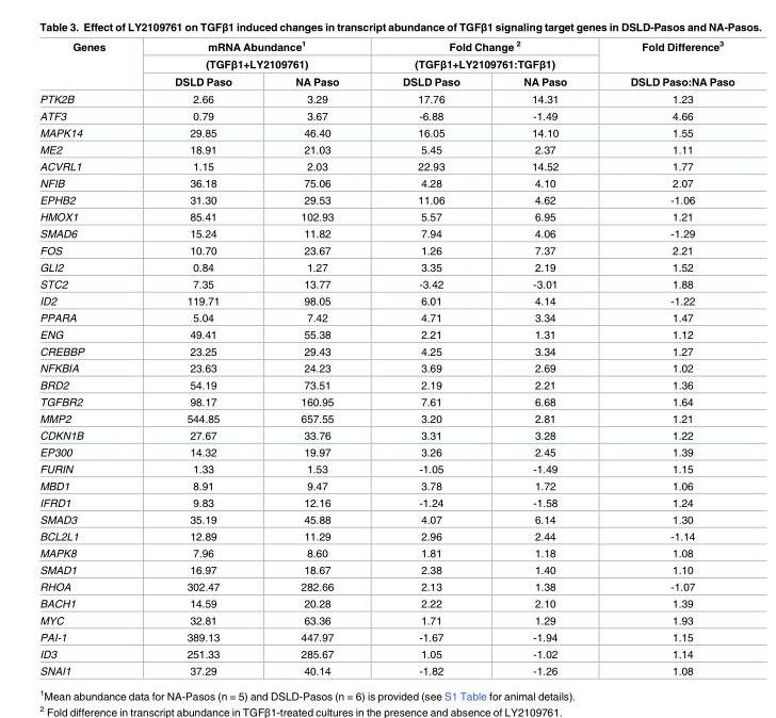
<table><thead><tr><td rowspan="3">Genes</td><td rowspan="2" colspan="2">mRNA Abundance<sup>1</sup> (TGFβ1+LY2109761)</td><td rowspan="2" colspan="2">Fold Change <sup>2</sup> (TGFβ1+LY2109761:TGFβ1)</td><td rowspan="3">Fold Difference<sup>3</sup> DSLD Paso:NA Paso</td></tr><tr></tr><tr><td>DSLD Paso</td><td>NA Paso</td><td>DSLD Paso</td><td>NA Paso</td></tr></thead><tbody><tr><td>PTK2B</td><td>2.66</td><td>3.29</td><td>17.76</td><td>14.31</td><td>1.23</td></tr><tr><td>ATF3</td><td>0.79</td><td>3.67</td><td>-6.88</td><td>-1.49</td><td>4.66</td></tr><tr><td>MAPK14</td><td>29.85</td><td>46.40</td><td>16.05</td><td>14.10</td><td>1.55</td></tr><tr><td>ME2</td><td>18.91</td><td>21.03</td><td>5.45</td><td>2.37</td><td>1.11</td></tr><tr><td>ACVRL1</td><td>1.15</td><td>2.03</td><td>22.93</td><td>14.52</td><td>1.77</td></tr><tr><td>NFIB</td><td>36.18</td><td>75.06</td><td>4.28</td><td>4.10</td><td>2.07</td></tr><tr><td>EPHB2</td><td>31.30</td><td>29.53</td><td>11.06</td><td>4.62</td><td>-1.06</td></tr><tr><td>HMOX1</td><td>85.41</td><td>102.93</td><td>5.57</td><td>6.95</td><td>1.21</td></tr><tr><td>SMAD6</td><td>15.24</td><td>11.82</td><td>7.94</td><td>4.06</td><td>-1.29</td></tr><tr><td>FOS</td><td>10.70</td><td>23.67</td><td>1.26</td><td>7.37</td><td>2.21</td></tr><tr><td>GLI2</td><td>0.84</td><td>1.27</td><td>3.35</td><td>2.19</td><td>1.52</td></tr><tr><td>STC2</td><td>7.35</td><td>13.77</td><td>-3.42</td><td>-3.01</td><td>1.88</td></tr><tr><td>ID2</td><td>119.71</td><td>98.05</td><td>6.01</td><td>4.14</td><td>-1.22</td></tr><tr><td>PPARA</td><td>5.04</td><td>7.42</td><td>4.71</td><td>3.34</td><td>1.47</td></tr><tr><td>ENG</td><td>49.41</td><td>55.38</td><td>2.21</td><td>1.31</td><td>1.12</td></tr><tr><td>CREBBP</td><td>23.25</td><td>29.43</td><td>4.25</td><td>3.34</td><td>1.27</td></tr><tr><td>NFKBIA</td><td>23.63</td><td>24.23</td><td>3.69</td><td>2.69</td><td>1.02</td></tr><tr><td>BRD2</td><td>54.19</td><td>73.51</td><td>2.19</td><td>2.21</td><td>1.36</td></tr><tr><td>TGFBR2</td><td>98.17</td><td>160.95</td><td>7.61</td><td>6.68</td><td>1.64</td></tr><tr><td>MMP2</td><td>544.85</td><td>657.55</td><td>3.20</td><td>2.81</td><td>1.21</td></tr><tr><td>CDKN1B</td><td>27.67</td><td>33.76</td><td>3.31</td><td>3.28</td><td>1.22</td></tr><tr><td>EP300</td><td>14.32</td><td>19.97</td><td>3.26</td><td>2.45</td><td>1.39</td></tr><tr><td>FURIN</td><td>1.33</td><td>1.53</td><td>-1.05</td><td>-1.49</td><td>1.15</td></tr><tr><td>MBD1</td><td>8.91</td><td>9.47</td><td>3.78</td><td>1.72</td><td>1.06</td></tr><tr><td>IFRD1</td><td>9.83</td><td>12.16</td><td>-1.24</td><td>-1.58</td><td>1.24</td></tr><tr><td>SMAD3</td><td>35.19</td><td>45.88</td><td>4.07</td><td>6.14</td><td>1.30</td></tr><tr><td>BCL2L1</td><td>12.89</td><td>11.29</td><td>2.96</td><td>2.44</td><td>-1.14</td></tr><tr><td>MAPK8</td><td>7.96</td><td>8.60</td><td>1.81</td><td>1.18</td><td>1.08</td></tr><tr><td>SMAD1</td><td>16.97</td><td>18.67</td><td>2.38</td><td>1.40</td><td>1.10</td></tr><tr><td>RHOA</td><td>302.47</td><td>282.66</td><td>2.13</td><td>1.38</td><td>-1.07</td></tr><tr><td>BACH1</td><td>14.59</td><td>20.28</td><td>2.22</td><td>2.10</td><td>1.39</td></tr><tr><td>MYC</td><td>32.81</td><td>63.36</td><td>1.71</td><td>1.29</td><td>1.93</td></tr><tr><td>PAI-1</td><td>389.13</td><td>447.97</td><td>-1.67</td><td>-1.94</td><td>1.15</td></tr><tr><td>ID3</td><td>251.33</td><td>285.67</td><td>1.05</td><td>-1.02</td><td>1.14</td></tr><tr><td>SNAI1</td><td>37.29</td><td>40.14</td><td>-1.82</td><td>-1.26</td><td>1.08</td></tr></tbody></table>